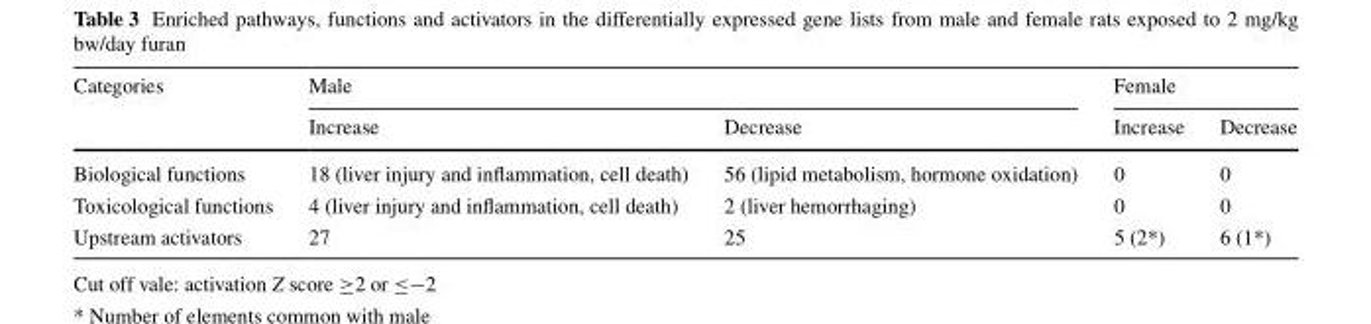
<table><thead><tr><td rowspan="2">Categories</td><td colspan="2">Male</td><td colspan="2">Female</td></tr><tr><td>Increase</td><td>Decrease</td><td>Increase</td><td>Decrease</td></tr></thead><tbody><tr><td>Biological functions</td><td>18 (liver injury and inflammation, cell death)</td><td>56 (lipid metabolism, hormone oxidation)</td><td>0</td><td>0</td></tr><tr><td>Toxicological functions</td><td>4 (liver injury and inflammation, cell death)</td><td>2 (liver hemorrhaging)</td><td>0</td><td>0</td></tr><tr><td>Upstream activators</td><td>27</td><td>25</td><td>5 (2*)</td><td>6 (1*)</td></tr></tbody></table>